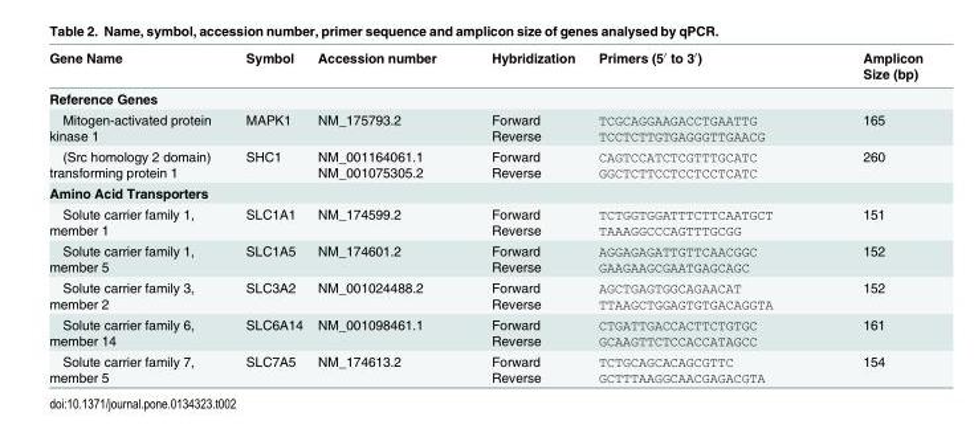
<table><thead><tr><td>Gene Name</td><td>Symbol</td><td>Accession number</td><td>Hybridization</td><td>Primers (5′ to 3′)</td><td>Amplicon Size (bp)</td></tr></thead><tbody><tr><td colspan="6">Reference Genes</td></tr><tr><td>Mitogen-activated protein kinase 1</td><td>MAPK1</td><td>NM_175793.2</td><td>Forward Reverse</td><td>TCGCAGGAAGACCTGAATTG TCCTCTTGTGAGGGTTGAACG</td><td>165</td></tr><tr><td>(Src homology 2 domain) transforming protein 1</td><td>SHC1</td><td>NM_001164061.1 NM_001075305.2</td><td>Forward Reverse</td><td>CAGTCCATCTCGTTTGCATC GGCTCTTCCTCCTCCTCATC</td><td>260</td></tr><tr><td colspan="6">Amino Acid Transporters</td></tr><tr><td>Solute carrier family 1, member 1</td><td>SLC1A1</td><td>NM_174599.2</td><td>Forward Reverse</td><td>TCTGGTGGATTTCTTCAATGCT TAAAGGCCCAGTTTGCGG</td><td>151</td></tr><tr><td>Solute carrier family 1, member 5</td><td>SLC1A5</td><td>NM_174601.2</td><td>Forward Reverse</td><td>AGGAGAGATTGTTCAACGGC GAAGAAGCGAATGAGCAGC</td><td>152</td></tr><tr><td>Solute carrier family 3, member 2</td><td>SLC3A2</td><td>NM_001024488.2</td><td>Forward Reverse</td><td>AGCTGAGTGGCAGAACAT TTAAGCTGGAGTGTGACAGGTA</td><td>152</td></tr><tr><td>Solute carrier family 6, member 14</td><td>SLC6A14</td><td>NM_001098461.1</td><td>Forward Reverse</td><td>CTGATTGACCACTTCTGTGC GCAAGTTCTCCACCATAGCC</td><td>161</td></tr><tr><td>Solute carrier family 7, member 5</td><td>SLC7A5</td><td>NM_174613.2</td><td>Forward Reverse</td><td>TCTGCAGCACAGCGTTC GCTTTAAGGCAACGAGACGTA</td><td>154</td></tr></tbody></table>